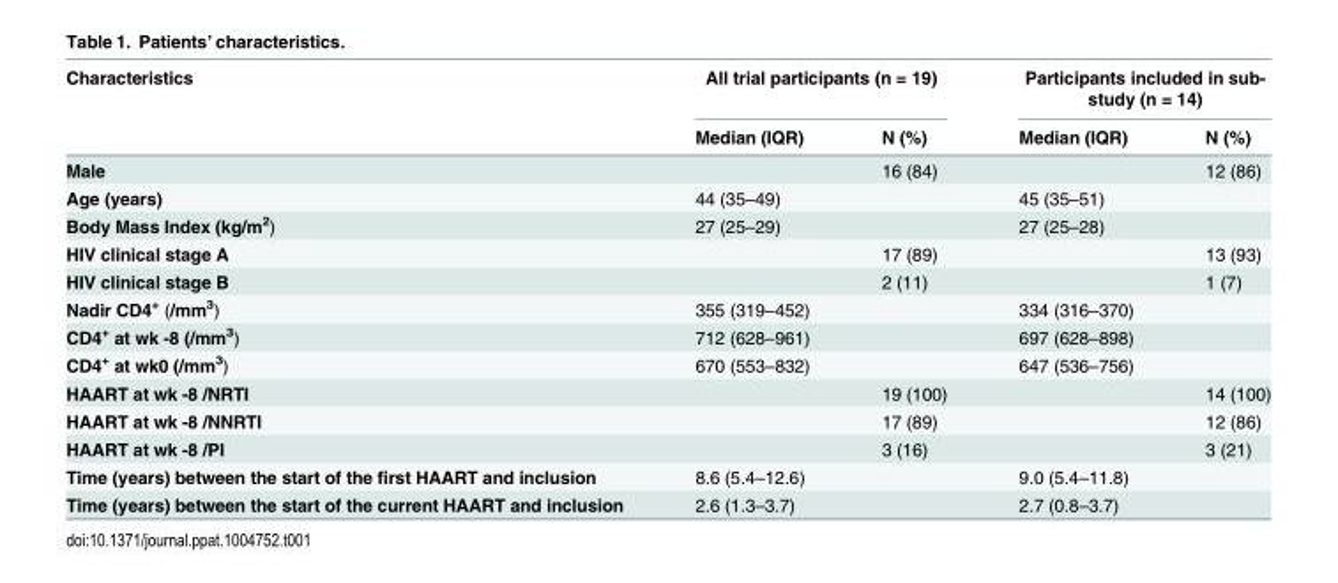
<table><thead><tr><td rowspan="2">Characteristics</td><td colspan="2">All trial participants (n = 19)</td><td colspan="2">Participants included in sub- study (n = 14)</td></tr><tr><td>Median (IQR)</td><td>N (%)</td><td>Median (IQR)</td><td>N (%)</td></tr></thead><tbody><tr><td>Male</td><td></td><td>16 (84)</td><td></td><td>12 (86)</td></tr><tr><td>Age (years)</td><td>44 (35–49)</td><td></td><td>45 (35–51)</td><td></td></tr><tr><td>Body Mass Index (kg/m<sup>2</sup>)</td><td>27 (25–29)</td><td></td><td>27 (25–28)</td><td></td></tr><tr><td>HIV clinical stage A</td><td></td><td>17 (89)</td><td></td><td>13 (93)</td></tr><tr><td>HIV clinical stage B</td><td></td><td>2 (11)</td><td></td><td>1 (7)</td></tr><tr><td>Nadir CD4<sup>+</sup> (/mm<sup>3</sup>)</td><td>355 (319–452)</td><td></td><td>334 (316–370)</td><td></td></tr><tr><td>CD4<sup>+</sup> at wk -8 (/mm<sup>3</sup>)</td><td>712 (628–961)</td><td></td><td>697 (628–898)</td><td></td></tr><tr><td>CD4<sup>+</sup> at wk0 (/mm<sup>3</sup>)</td><td>670 (553–832)</td><td></td><td>647 (536–756)</td><td></td></tr><tr><td>HAART at wk -8 /NRTI</td><td></td><td>19 (100)</td><td></td><td>14 (100)</td></tr><tr><td>HAART at wk -8 /NNRTI</td><td></td><td>17 (89)</td><td></td><td>12 (86)</td></tr><tr><td>HAART at wk -8 /PI</td><td></td><td>3 (16)</td><td></td><td>3 (21)</td></tr><tr><td>Time (years) between the start of the first HAART and inclusion</td><td>8.6 (5.4–12.6)</td><td></td><td>9.0 (5.4–11.8)</td><td></td></tr><tr><td>Time (years) between the start of the current HAART and inclusion</td><td>2.6 (1.3–3.7)</td><td></td><td>2.7 (0.8–3.7)</td><td></td></tr></tbody></table>